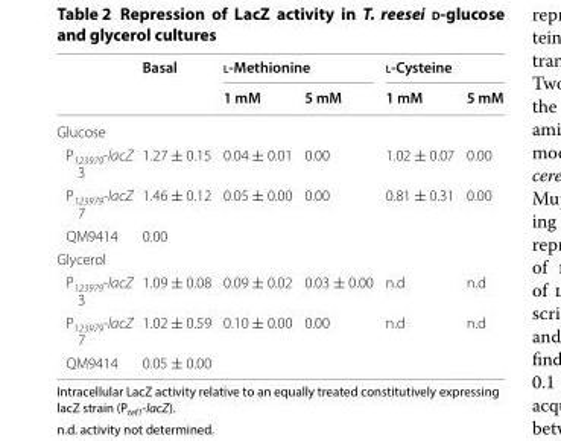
<table><thead><tr><td rowspan="2"></td><td rowspan="2">Basal</td><td colspan="2">l‑Methionine</td><td colspan="2">l‑Cysteine</td></tr><tr><td>1 mM</td><td>5 mM</td><td>1 mM</td><td>5 mM</td></tr></thead><tbody><tr><td colspan="6">Glucose</td></tr><tr><td>P<sub>123979</sub>-lacZ 3</td><td>1.27 ± 0.15</td><td>0.04 ± 0.01</td><td>0.00</td><td>1.02 ± 0.07</td><td>0.00</td></tr><tr><td>P<sub>123979</sub>-lacZ 7</td><td>1.46 ± 0.12</td><td>0.05 ± 0.00</td><td>0.00</td><td>0.81 ± 0.31</td><td>0.00</td></tr><tr><td>QM9414</td><td>0.00</td><td></td><td></td><td></td><td></td></tr><tr><td colspan="6">Glycerol</td></tr><tr><td>P<sub>123979</sub>-lacZ 3</td><td>1.09 ± 0.08</td><td>0.09 ± 0.02</td><td>0.03 ± 0.00</td><td>n.d</td><td>n.d</td></tr><tr><td>P<sub>123979</sub>-lacZ 7</td><td>1.02 ± 0.59</td><td>0.10 ± 0.00</td><td>0.00</td><td>n.d</td><td>n.d</td></tr><tr><td>QM9414</td><td>0.05 ± 0.00</td><td></td><td></td><td></td><td></td></tr></tbody></table>